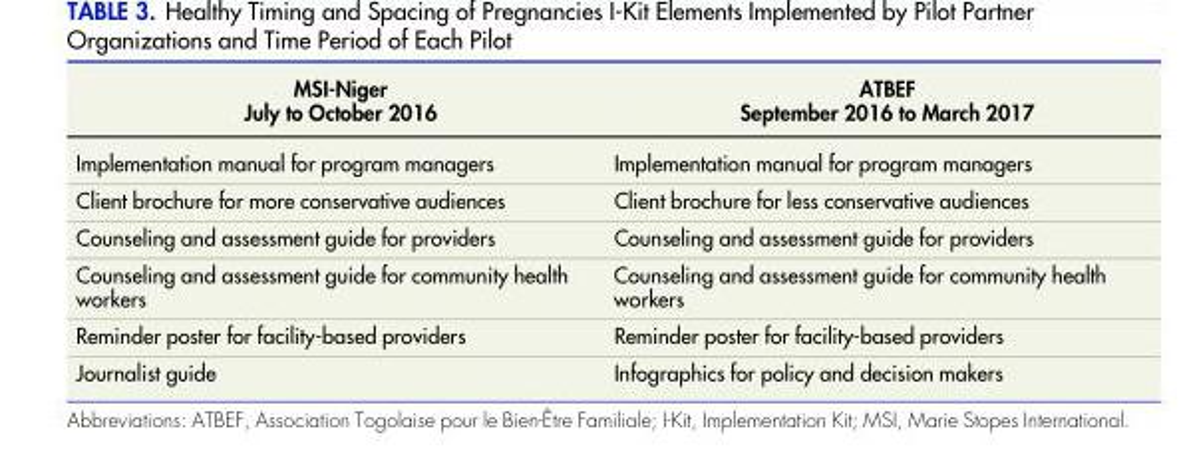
<table><thead><tr><td>MSI-Niger July to October 2016</td><td>ATBEF September 2016 to March 2017</td></tr></thead><tbody><tr><td>Implementation manual for program managers</td><td>Implementation manual for program managers</td></tr><tr><td>Client brochure for more conservative audiences</td><td>Client brochure for less conservative audiences</td></tr><tr><td>Counseling and assessment guide for providers</td><td>Counseling and assessment guide for providers</td></tr><tr><td>Counseling and assessment guide for community health workers</td><td>Counseling and assessment guide for community health workers</td></tr><tr><td>Reminder poster for facility-based providers</td><td>Reminder poster for facility-based providers</td></tr><tr><td>Journalist guide</td><td>Infographics for policy and decision makers</td></tr></tbody></table>